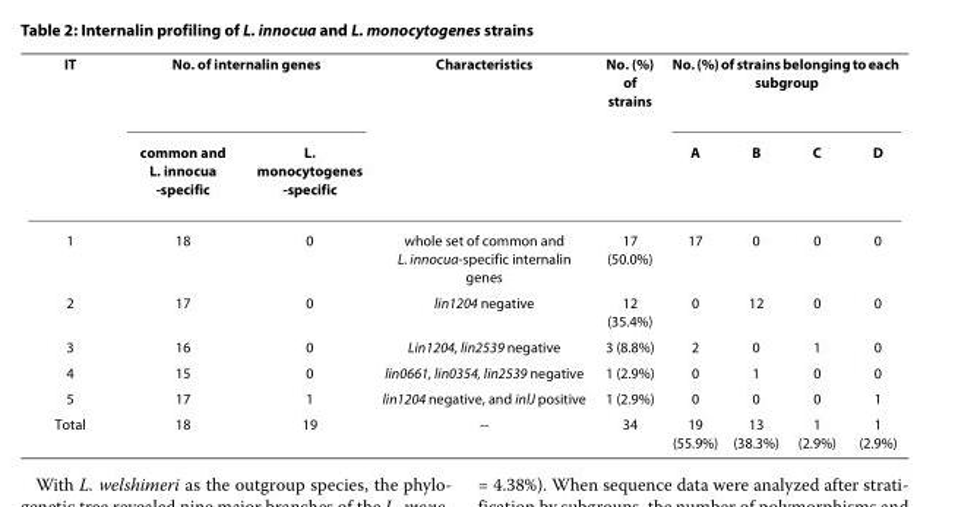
<table><thead><tr><td rowspan="2">IT</td><td colspan="2">No. of internalin genes</td><td rowspan="2">Characteristics</td><td rowspan="2">No. (%) of strains</td><td colspan="4">No. (%) of strains belonging to each subgroup</td></tr><tr><td>common and L. innocua -specific</td><td>L. monocytogenes -specific</td><td>A</td><td>B</td><td>C</td><td>D</td></tr></thead><tbody><tr><td>1</td><td>18</td><td>0</td><td>whole set of common and L. innocua-specific internalin genes</td><td>17 (50.0%)</td><td>17</td><td>0</td><td>0</td><td>0</td></tr><tr><td>2</td><td>17</td><td>0</td><td>lin1204 negative</td><td>12 (35.4%)</td><td>0</td><td>12</td><td>0</td><td>0</td></tr><tr><td>3</td><td>16</td><td>0</td><td>Lin1204, lin2539 negative</td><td>3 (8.8%)</td><td>2</td><td>0</td><td>1</td><td>0</td></tr><tr><td>4</td><td>15</td><td>0</td><td>lin0661, lin0354, lin2539 negative</td><td>1 (2.9%)</td><td>0</td><td>1</td><td>0</td><td>0</td></tr><tr><td>5</td><td>17</td><td>1</td><td>lin1204 negative, and inlJ positive</td><td>1 (2.9%)</td><td>0</td><td>0</td><td>0</td><td>1</td></tr><tr><td>Total</td><td>18</td><td>19</td><td>--</td><td>34</td><td>19 (55.9%)</td><td>13 (38.3%)</td><td>1 (2.9%)</td><td>1 (2.9%)</td></tr></tbody></table>